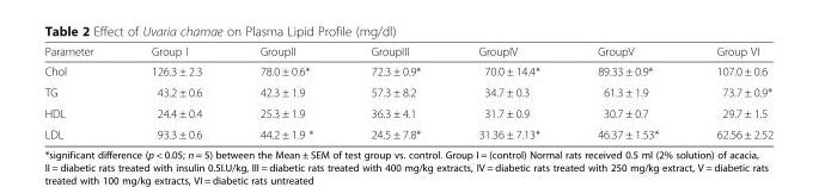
<table><thead><tr><td>Parameter</td><td>Group I</td><td>GroupII</td><td>GroupIII</td><td>GroupIV</td><td>GroupV</td><td>Group VI</td></tr></thead><tbody><tr><td>Chol</td><td>126.3 ± 2.3</td><td>78.0 ± 0.6*</td><td>72.3 ± 0.9*</td><td>70.0 ± 14.4*</td><td>89.33 ± 0.9*</td><td>107.0 ± 0.6</td></tr><tr><td>TG</td><td>43.2 ± 0.6</td><td>42.3 ± 1.9</td><td>57.3 ± 8.2</td><td>34.7 ± 0.3</td><td>61.3 ± 1.9</td><td>73.7 ± 0.9*</td></tr><tr><td>HDL</td><td>24.4 ± 0.4</td><td>25.3 ± 1.9</td><td>36.3 ± 4.1</td><td>31.7 ± 0.9</td><td>30.7 ± 0.7</td><td>29.7 ± 1.5</td></tr><tr><td>LDL</td><td>93.3 ± 0.6</td><td>44.2 ± 1.9 *</td><td>24.5 ± 7.8*</td><td>31.36 ± 7.13*</td><td>46.37 ± 1.53*</td><td>62.56 ± 2.52</td></tr></tbody></table>